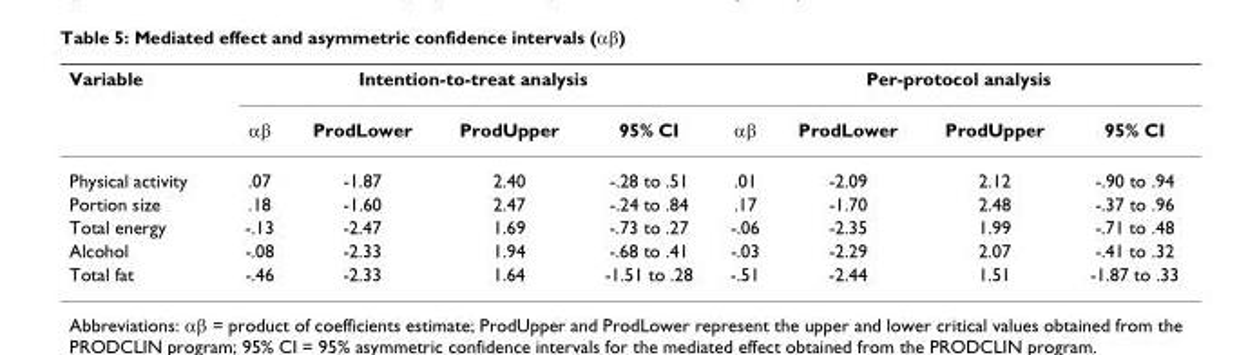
<table><thead><tr><td rowspan="2">Variable</td><td colspan="4">Intention-to-treat analysis</td><td colspan="4">Per-protocol analysis</td></tr><tr><td>αβ</td><td>ProdLower</td><td>ProdUpper</td><td>95% CI</td><td>αβ</td><td>ProdLower</td><td>ProdUpper</td><td>95% CI</td></tr></thead><tbody><tr><td>Physical activity</td><td>.07</td><td>-1.87</td><td>2.40</td><td>-.28 to .51</td><td>.01</td><td>-2.09</td><td>2.12</td><td>-.90 to .94</td></tr><tr><td>Portion size</td><td>.18</td><td>-1.60</td><td>2.47</td><td>-.24 to .84</td><td>.17</td><td>-1.70</td><td>2.48</td><td>-.37 to .96</td></tr><tr><td>Total energy</td><td>-.13</td><td>-2.47</td><td>1.69</td><td>-.73 to .27</td><td>-.06</td><td>-2.35</td><td>1.99</td><td>-.71 to .48</td></tr><tr><td>Alcohol</td><td>-.08</td><td>-2.33</td><td>1.94</td><td>-.68 to .41</td><td>-.03</td><td>-2.29</td><td>2.07</td><td>-.41 to .32</td></tr><tr><td>Total fat</td><td>-.46</td><td>-2.33</td><td>1.64</td><td>-1.51 to .28</td><td>-.51</td><td>-2.44</td><td>1.51</td><td>-1.87 to .33</td></tr></tbody></table>